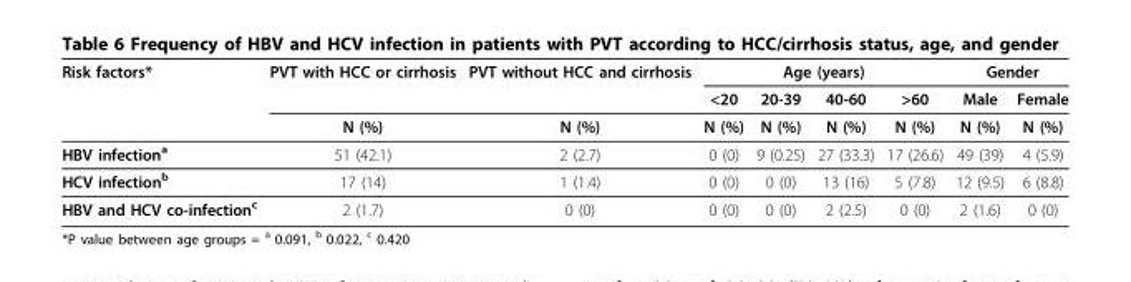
<table><thead><tr><td rowspan="3">Risk factors*</td><td rowspan="3">PVT with HCC or cirrhosis N (%)</td><td rowspan="3">PVT without HCC and cirrhosis N (%)</td><td colspan="4">Age (years)</td><td colspan="2">Gender</td></tr><tr><td rowspan="2">&lt;20 N (%)</td><td rowspan="2">20-39 N (%)</td><td rowspan="2">40-60 N (%)</td><td rowspan="2">&gt;60 N (%)</td><td rowspan="2">Male N (%)</td><td rowspan="2">Female N (%)</td></tr><tr></tr></thead><tbody><tr><td>HBV infectiona</td><td>51 (42.1)</td><td>2 (2.7)</td><td>0 (0)</td><td>9 (0.25)</td><td>27 (33.3)</td><td>17 (26.6)</td><td>49 (39)</td><td>4 (5.9)</td></tr><tr><td>HCV infectionb</td><td>17 (14)</td><td>1 (1.4)</td><td>0 (0)</td><td>0 (0)</td><td>13 (16)</td><td>5 (7.8)</td><td>12 (9.5)</td><td>6 (8.8)</td></tr><tr><td>HBV and HCV co-infectionc</td><td>2 (1.7)</td><td>0 (0)</td><td>0 (0)</td><td>0 (0)</td><td>2 (2.5)</td><td>0 (0)</td><td>2 (1.6)</td><td>0 (0)</td></tr></tbody></table>